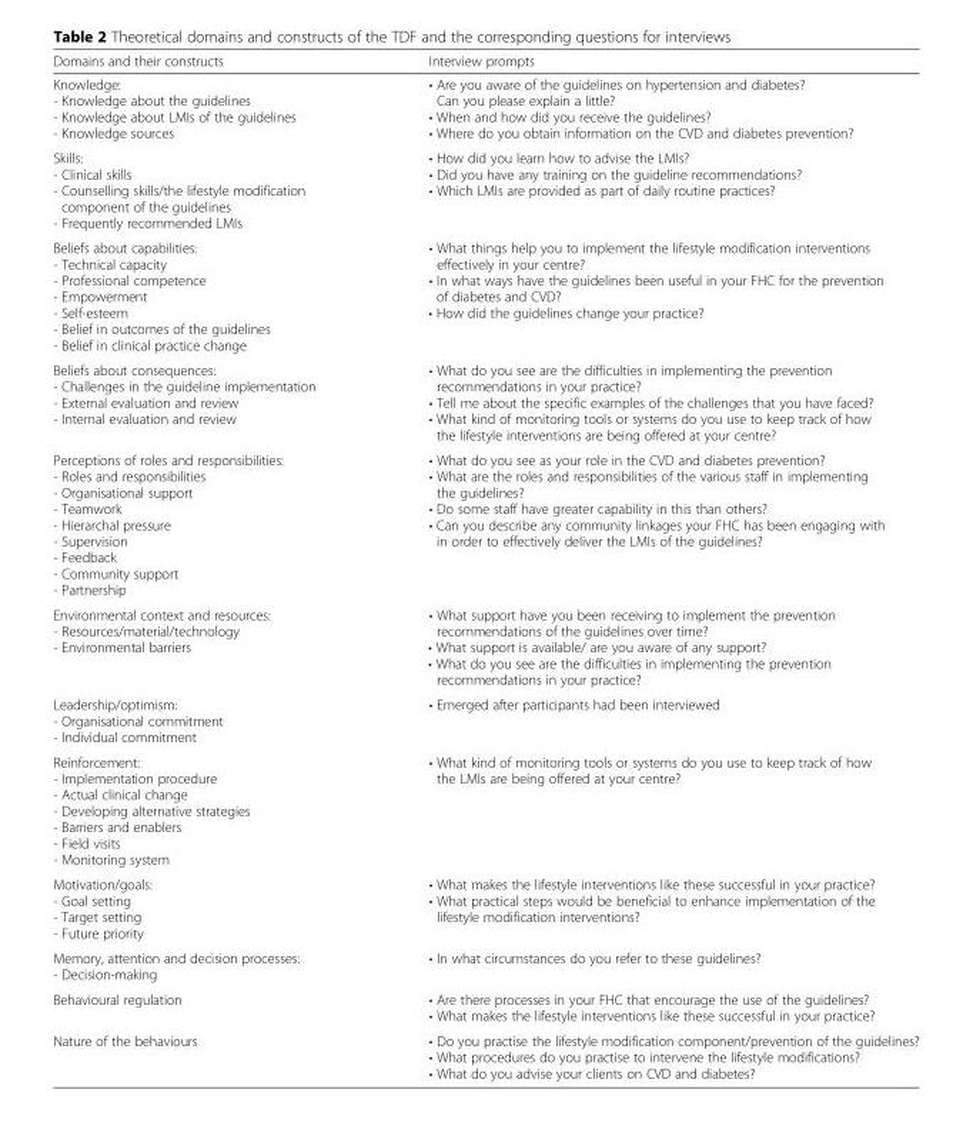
<table><thead><tr><td>Domains and their constructs</td><td>Interview prompts</td></tr></thead><tbody><tr><td>Knowledge: - Knowledge about the guidelines - Knowledge about LMIs of the guidelines - Knowledge sources</td><td>• Are you aware of the guidelines on hypertension and diabetes? Can you please explain a little? • When and how did you receive the guidelines? • Where do you obtain information on the CVD and diabetes prevention?</td></tr><tr><td>Skills: - Clinical skills - Counselling skills/the lifestyle modification component of the guidelines - Frequently recommended LMIs</td><td>• How did you learn how to advise the LMIs? • Did you have any training on the guideline recommendations? • Which LMIs are provided as part of daily routine practices?</td></tr><tr><td>Beliefs about capabilities: - Technical capacity - Professional competence - Empowerment - Self-esteem - Belief in outcomes of the guidelines - Belief in clinical practice change</td><td>• What things help you to implement the lifestyle modification interventions effectively in your centre? • In what ways have the guidelines been useful in your FHC for the prevention of diabetes and CVD? • How did the guidelines change your practice?</td></tr><tr><td>Beliefs about consequences: - Challenges in the guideline implementation - External evaluation and review - Internal evaluation and review</td><td>• What do you see are the difficulties in implementing the prevention recommendations in your practice? • Tell me about the specific examples of the challenges that you have faced? • What kind of monitoring tools or systems do you use to keep track of how the lifestyle interventions are being offered at your centre?</td></tr><tr><td>Perceptions of roles and responsibilities: - Roles and responsibilities - Organisational support - Teamwork - Hierarchal pressure - Supervision - Feedback - Community support - Partnership</td><td>• What do you see as your role in the CVD and diabetes prevention? • What are the roles and responsibilities of the various staff in implementing the guidelines? • Do some staff have greater capability in this than others? • Can you describe any community linkages your FHC has been engaging with in order to effectively deliver the LMIs of the guidelines?</td></tr><tr><td>Environmental context and resources: - Resources/material/technology - Environmental barriers</td><td>• What support have you been receiving to implement the prevention recommendations of the guidelines over time? • What support is available/ are you aware of any support? • What do you see are the difficulties in implementing the prevention recommendations in your practice?</td></tr><tr><td>Leadership/optimism: - Organisational commitment - Individual commitment</td><td>• Emerged after participants had been interviewed</td></tr><tr><td>Reinforcement: - Implementation procedure - Actual clinical change - Developing alternative strategies - Barriers and enablers - Field visits - Monitoring system</td><td>• What kind of monitoring tools or systems do you use to keep track of how the LMIs are being offered at your centre?</td></tr><tr><td>Motivation/goals: - Goal setting - Target setting - Future priority</td><td>• What makes the lifestyle interventions like these successful in your practice? • What practical steps would be beneficial to enhance implementation of the lifestyle modification interventions?</td></tr><tr><td>Memory, attention and decision processes: - Decision-making</td><td>• In what circumstances do you refer to these guidelines?</td></tr><tr><td>Behavioural regulation</td><td>• Are there processes in your FHC that encourage the use of the guidelines? • What makes the lifestyle interventions like these successful in your practice?</td></tr><tr><td>Nature of the behaviours</td><td>• Do you practise the lifestyle modification component/prevention of the guidelines? • What procedures do you practise to intervene the lifestyle modifications? • What do you advise your clients on CVD and diabetes?</td></tr></tbody></table>